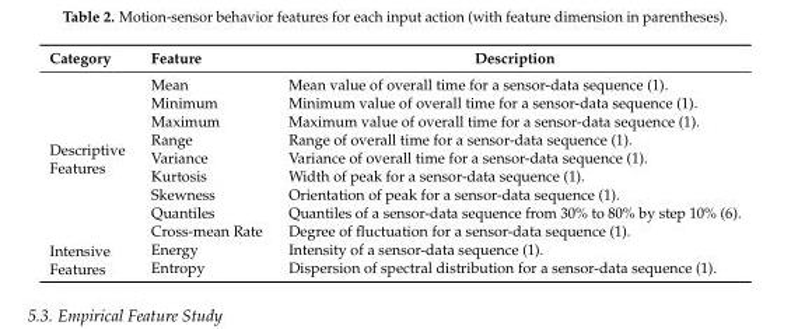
<table><thead><tr><td>Category</td><td>Feature</td><td>Description</td></tr></thead><tbody><tr><td rowspan="9">Descriptive Features</td><td>Mean</td><td>Mean value of overall time for a sensor-data sequence (1).</td></tr><tr><td>Minimum</td><td>Minimum value of overall time for a sensor-data sequence (1).</td></tr><tr><td>Maximum</td><td>Maximum value of overall time for a sensor-data sequence (1).</td></tr><tr><td>Range</td><td>Range of overall time for a sensor-data sequence (1).</td></tr><tr><td>Variance</td><td>Variance of overall time for a sensor-data sequence (1).</td></tr><tr><td>Kurtosis</td><td>Width of peak for a sensor-data sequence (1).</td></tr><tr><td>Skewness</td><td>Orientation of peak for a sensor-data sequence (1).</td></tr><tr><td>Quantiles</td><td>Quantiles of a sensor-data sequence from 30% to 80% by step 10% (6).</td></tr><tr><td>Cross-mean Rate</td><td>Degree of fluctuation for a sensor-data sequence (1).</td></tr><tr><td rowspan="2">Intensive Features</td><td>Energy</td><td>Intensity of a sensor-data sequence (1).</td></tr><tr><td>Entropy</td><td>Dispersion of spectral distribution for a sensor-data sequence (1).</td></tr></tbody></table>